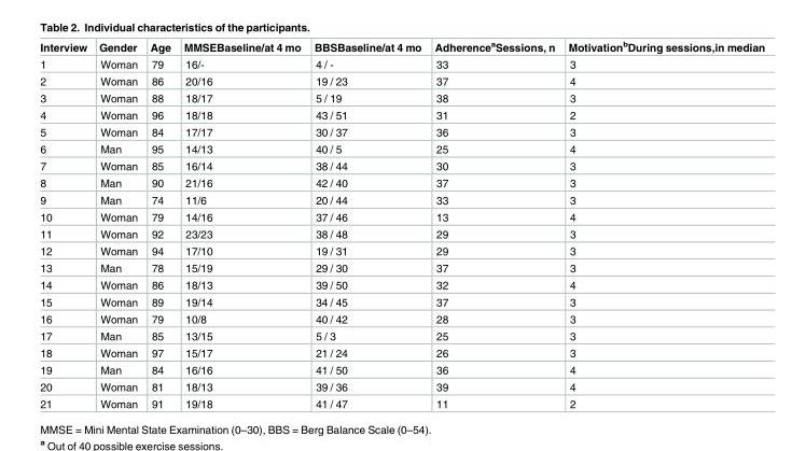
<table><thead><tr><td>Interview</td><td>Gender</td><td>Age</td><td>MMSEBaseline/at 4 mo</td><td>BBSBaseline/at 4 mo</td><td>Adherence<sup>a</sup>Sessions, n</td><td>Motivation<sup>b</sup>During sessions,in median</td></tr></thead><tbody><tr><td>1</td><td>Woman</td><td>79</td><td>16/-</td><td>4 / -</td><td>33</td><td>3</td></tr><tr><td>2</td><td>Woman</td><td>86</td><td>20/16</td><td>19 / 23</td><td>37</td><td>4</td></tr><tr><td>3</td><td>Woman</td><td>88</td><td>18/17</td><td>5 / 19</td><td>38</td><td>3</td></tr><tr><td>4</td><td>Woman</td><td>96</td><td>18/18</td><td>43 / 51</td><td>31</td><td>2</td></tr><tr><td>5</td><td>Woman</td><td>84</td><td>17/17</td><td>30 / 37</td><td>36</td><td>3</td></tr><tr><td>6</td><td>Man</td><td>95</td><td>14/13</td><td>40 / 5</td><td>25</td><td>4</td></tr><tr><td>7</td><td>Woman</td><td>85</td><td>16/14</td><td>38 / 44</td><td>30</td><td>3</td></tr><tr><td>8</td><td>Man</td><td>90</td><td>21/16</td><td>42 / 40</td><td>37</td><td>3</td></tr><tr><td>9</td><td>Man</td><td>74</td><td>11/6</td><td>20 / 44</td><td>33</td><td>3</td></tr><tr><td>10</td><td>Woman</td><td>79</td><td>14/16</td><td>37 / 46</td><td>13</td><td>4</td></tr><tr><td>11</td><td>Woman</td><td>92</td><td>23/23</td><td>38 / 48</td><td>29</td><td>3</td></tr><tr><td>12</td><td>Woman</td><td>94</td><td>17/10</td><td>19 / 31</td><td>29</td><td>3</td></tr><tr><td>13</td><td>Man</td><td>78</td><td>15/19</td><td>29 / 30</td><td>37</td><td>3</td></tr><tr><td>14</td><td>Woman</td><td>86</td><td>18/13</td><td>39 / 50</td><td>32</td><td>4</td></tr><tr><td>15</td><td>Woman</td><td>89</td><td>19/14</td><td>34 / 45</td><td>37</td><td>3</td></tr><tr><td>16</td><td>Woman</td><td>79</td><td>10/8</td><td>40 / 42</td><td>28</td><td>3</td></tr><tr><td>17</td><td>Man</td><td>85</td><td>13/15</td><td>5 / 3</td><td>25</td><td>3</td></tr><tr><td>18</td><td>Woman</td><td>97</td><td>15/17</td><td>21 / 24</td><td>26</td><td>3</td></tr><tr><td>19</td><td>Man</td><td>84</td><td>16/16</td><td>41 / 50</td><td>36</td><td>4</td></tr><tr><td>20</td><td>Woman</td><td>81</td><td>18/13</td><td>39 / 36</td><td>39</td><td>4</td></tr><tr><td>21</td><td>Woman</td><td>91</td><td>19/18</td><td>41 / 47</td><td>11</td><td>2</td></tr></tbody></table>